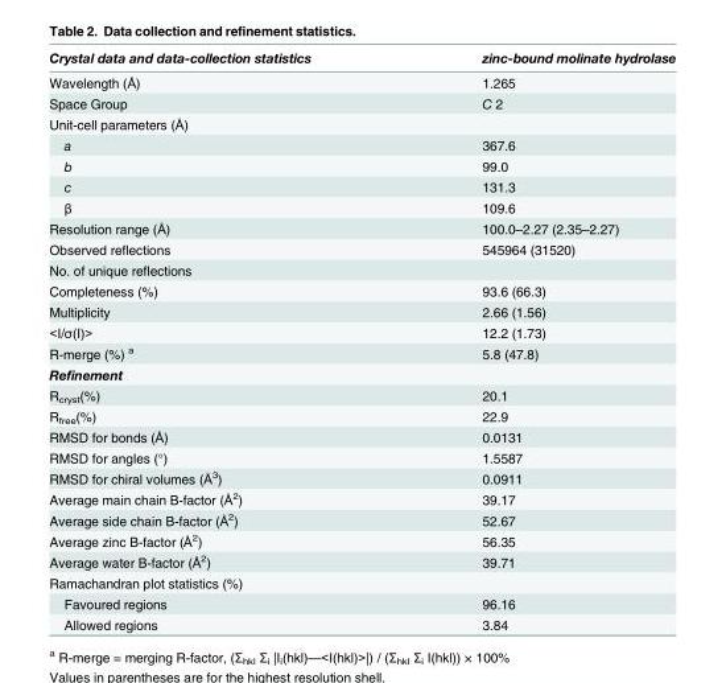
<table><thead><tr><td>Crystal data and data-collection statistics</td><td>zinc-bound molinate hydrolase</td></tr></thead><tbody><tr><td>Wavelength (Å)</td><td>1.265</td></tr><tr><td>Space Group</td><td>C 2</td></tr><tr><td colspan="2">Unit-cell parameters (Å)</td></tr><tr><td>a</td><td>367.6</td></tr><tr><td>b</td><td>99.0</td></tr><tr><td>c</td><td>131.3</td></tr><tr><td>β</td><td>109.6</td></tr><tr><td>Resolution range (Å)</td><td>100.0–2.27 (2.35–2.27)</td></tr><tr><td>Observed reflections</td><td>545964 (31520)</td></tr><tr><td colspan="2">No. of unique reflections</td></tr><tr><td>Completeness (%)</td><td>93.6 (66.3)</td></tr><tr><td>Multiplicity</td><td>2.66 (1.56)</td></tr><tr><td>&lt;I/σ(I)&gt;</td><td>12.2 (1.73)</td></tr><tr><td>R-merge (%) <sup>a</sup></td><td>5.8 (47.8)</td></tr><tr><td colspan="2">Refinement</td></tr><tr><td>R<sub>cryst</sub>(%)</td><td>20.1</td></tr><tr><td>R<sub>free</sub>(%)</td><td>22.9</td></tr><tr><td>RMSD for bonds (Å)</td><td>0.0131</td></tr><tr><td>RMSD for angles (°)</td><td>1.5587</td></tr><tr><td>RMSD for chiral volumes (Å<sup>3</sup>)</td><td>0.0911</td></tr><tr><td>Average main chain B-factor (Å<sup>2</sup>)</td><td>39.17</td></tr><tr><td>Average side chain B-factor (Å<sup>2</sup>)</td><td>52.67</td></tr><tr><td>Average zinc B-factor (Å<sup>2</sup>)</td><td>56.35</td></tr><tr><td>Average water B-factor (Å<sup>2</sup>)</td><td>39.71</td></tr><tr><td colspan="2">Ramachandran plot statistics (%)</td></tr><tr><td>Favoured regions</td><td>96.16</td></tr><tr><td>Allowed regions</td><td>3.84</td></tr></tbody></table>